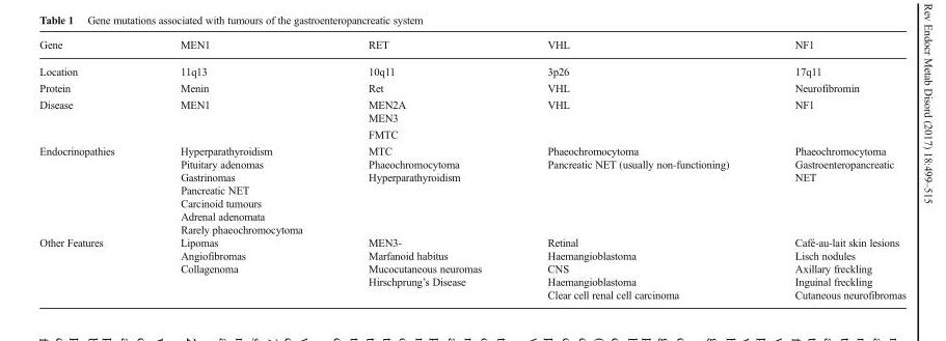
<table><thead><tr><td>Gene</td><td>MEN1</td><td>RET</td><td>VHL</td><td>NF1</td></tr></thead><tbody><tr><td>Location</td><td>11q13</td><td>10q11</td><td>3p26</td><td>17q11</td></tr><tr><td>Protein</td><td>Menin</td><td>Ret</td><td>VHL</td><td>Neurofibromin</td></tr><tr><td rowspan="3">Disease</td><td rowspan="3">MEN1</td><td>MEN2A</td><td rowspan="3">VHL</td><td rowspan="3">NF1</td></tr><tr><td>MEN3</td></tr><tr><td>FMTC</td></tr><tr><td>Endocrinopathies</td><td>Hyperparathyroidism Pituitary adenomas Gastrinomas Pancreatic NET Carcinoid tumours Adrenal adenomata Rarely phaeochromocytoma</td><td>MTC Phaeochromocytoma Hyperparathyroidism</td><td>Phaeochromocytoma Pancreatic NET (usually non-functioning)</td><td>Phaeochromocytoma Gastroenteropancreatic NET</td></tr><tr><td>Other Features</td><td>Lipomas Angiofibromas Collagenoma</td><td>MEN3- Marfanoid habitus Mucocutaneous neuromas Hirschprung’s Disease</td><td>Retinal Haemangioblastoma CNS Haemangioblastoma Clear cell renal cell carcinoma</td><td>Café-au-lait skin lesions Lisch nodules Axillary freckling Inguinal freckling Cutaneous neurofibromas</td></tr></tbody></table>